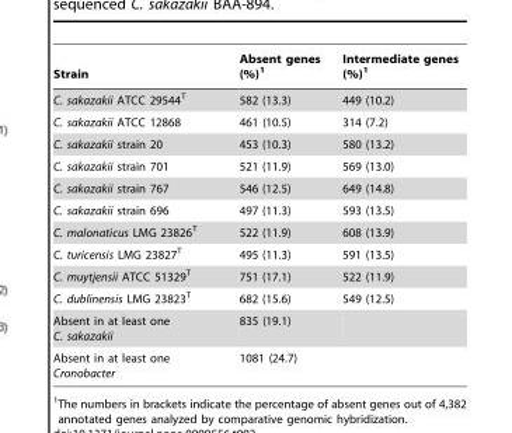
<table><thead><tr><td>Strain</td><td>Absent genes (%)<sup>1</sup></td><td>Intermediate genes (%)<sup>1</sup></td></tr></thead><tbody><tr><td>C. sakazakii ATCC 29544<sup>T</sup></td><td>582 (13.3)</td><td>449 (10.2)</td></tr><tr><td>C. sakazakii ATCC 12868</td><td>461 (10.5)</td><td>314 (7.2)</td></tr><tr><td>C. sakazakii strain 20</td><td>453 (10.3)</td><td>580 (13.2)</td></tr><tr><td>C. sakazakii strain 701</td><td>521 (11.9)</td><td>569 (13.0)</td></tr><tr><td>C. sakazakii strain 767</td><td>546 (12.5)</td><td>649 (14.8)</td></tr><tr><td>C. sakazakii strain 696</td><td>497 (11.3)</td><td>593 (13.5)</td></tr><tr><td>C. malonaticus LMG 23826<sup>T</sup></td><td>522 (11.9)</td><td>608 (13.9)</td></tr><tr><td>C. turicensis LMG 23827<sup>T</sup></td><td>495 (11.3)</td><td>591 (13.5)</td></tr><tr><td>C. muytjensii ATCC 51329<sup>T</sup></td><td>751 (17.1)</td><td>522 (11.9)</td></tr><tr><td>C. dublinensis LMG 23823<sup>T</sup></td><td>682 (15.6)</td><td>549 (12.5)</td></tr><tr><td>Absent in at least one C. sakazakii</td><td>835 (19.1)</td><td></td></tr><tr><td>Absent in at least one Cronobacter</td><td>1081 (24.7)</td><td></td></tr></tbody></table>